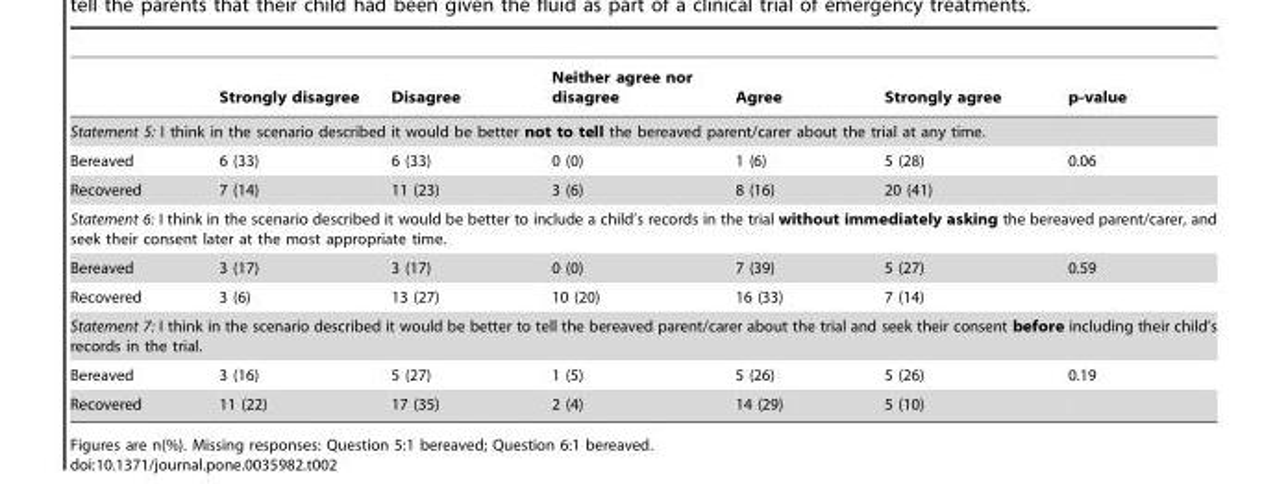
<table><thead><tr><td></td><td>Strongly disagree</td><td>Disagree</td><td>Neither agree nor disagree</td><td>Agree</td><td>Strongly agree</td><td>p-value</td></tr></thead><tbody><tr><td colspan="7">Statement 5: I think in the scenario described it would be better not to tell the bereaved parent/carer about the trial at any time.</td></tr><tr><td>Bereaved</td><td>6 (33)</td><td>6 (33)</td><td>0 (0)</td><td>1 (6)</td><td>5 (28)</td><td>0.06</td></tr><tr><td>Recovered</td><td>7 (14)</td><td>11 (23)</td><td>3 (6)</td><td>8 (16)</td><td>20 (41)</td><td></td></tr><tr><td colspan="7">Statement 6: I think in the scenario described it would be better to include a child’s records in the trial without immediately asking the bereaved parent/carer, and seek their consent later at the most appropriate time.</td></tr><tr><td>Bereaved</td><td>3 (17)</td><td>3 (17)</td><td>0 (0)</td><td>7 (39)</td><td>5 (27)</td><td>0.59</td></tr><tr><td>Recovered</td><td>3 (6)</td><td>13 (27)</td><td>10 (20)</td><td>16 (33)</td><td>7 (14)</td><td></td></tr><tr><td colspan="7">Statement 7: I think in the scenario described it would be better to tell the bereaved parent/carer about the trial and seek their consent before including their child’s records in the trial.</td></tr><tr><td>Bereaved</td><td>3 (16)</td><td>5 (27)</td><td>1 (5)</td><td>5 (26)</td><td>5 (26)</td><td>0.19</td></tr><tr><td>Recovered</td><td>11 (22)</td><td>17 (35)</td><td>2 (4)</td><td>14 (29)</td><td>5 (10)</td><td></td></tr></tbody></table>